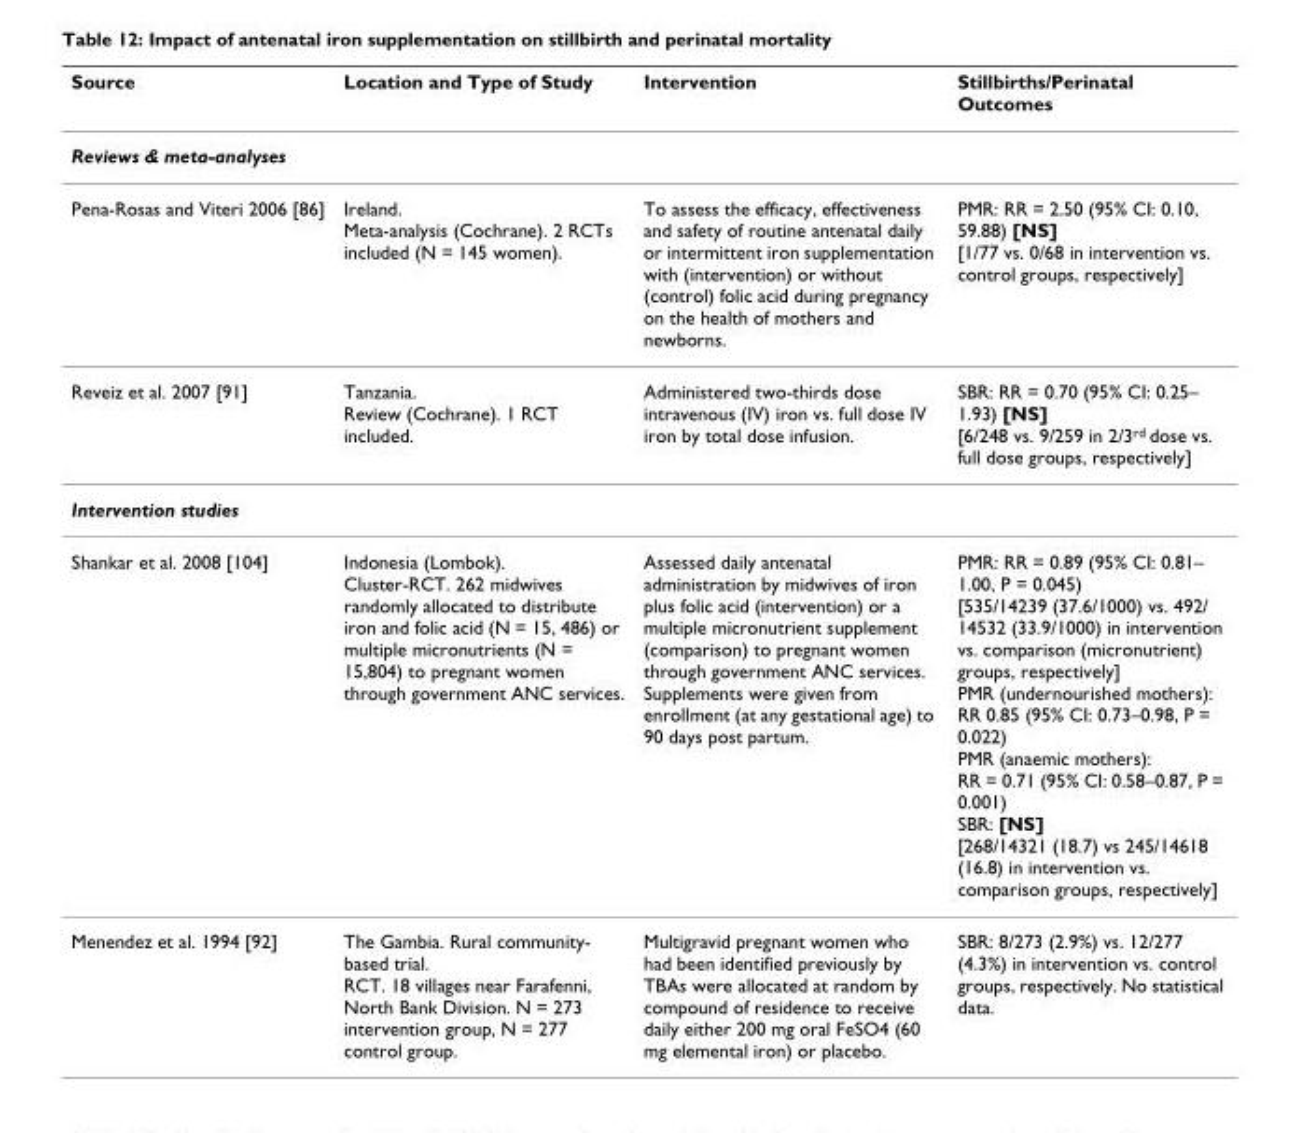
<table><thead><tr><td>Source</td><td>Location and Type of Study</td><td>Intervention</td><td>Stillbirths/Perinatal Outcomes</td></tr></thead><tbody><tr><td colspan="4">Reviews &amp; meta-analyses</td></tr><tr><td>Pena-Rosas and Viteri 2006 [86]</td><td>Ireland. Meta-analysis (Cochrane). 2 RCTs included (N = 145 women).</td><td>To assess the efficacy, effectiveness and safety of routine antenatal daily or intermittent iron supplementation with (intervention) or without (control) folic acid during pregnancy on the health of mothers and newborns.</td><td>PMR: RR = 2.50 (95% CI: 0.10, 59.88) [NS] [1/77 vs. 0/68 in intervention vs. control groups, respectively]</td></tr><tr><td>Reveiz et al. 2007 [91]</td><td>Tanzania. Review (Cochrane). 1 RCT included.</td><td>Administered two-thirds dose intravenous (IV) iron vs. full dose IV iron by total dose infusion.</td><td>SBR: RR = 0.70 (95% CI: 0.25– 1.93) [NS] [6/248 vs. 9/259 in 2/3rd dose vs. full dose groups, respectively]</td></tr><tr><td colspan="4">Intervention studies</td></tr><tr><td>Shankar et al. 2008 [104]</td><td>Indonesia (Lombok). Cluster-RCT. 262 midwives randomly allocated to distribute iron and folic acid (N = 15, 486) or multiple micronutrients (N = 15,804) to pregnant women through government ANC services.</td><td>Assessed daily antenatal administration by midwives of iron plus folic acid (intervention) or a multiple micronutrient supplement (comparison) to pregnant women through government ANC services. Supplements were given from enrollment (at any gestational age) to 90 days post partum.</td><td>PMR: RR = 0.89 (95% CI: 0.81– 1.00, P = 0.045) [535/14239 (37.6/1000) vs. 492/ 14532 (33.9/1000) in intervention vs. comparison (micronutrient) groups, respectively] PMR (undernourished mothers): RR 0.85 (95% CI: 0.73–0.98, P = 0.022) PMR (anaemic mothers): RR = 0.71 (95% CI: 0.58–0.87, P = 0.001) SBR: [NS] [268/14321 (18.7) vs 245/14618 (16.8) in intervention vs. comparison groups, respectively]</td></tr><tr><td>Menendez et al. 1994 [92]</td><td>The Gambia. Rural community- based trial. RCT. 18 villages near Farafenni, North Bank Division. N = 273 intervention group, N = 277 control group.</td><td>Multigravid pregnant women who had been identified previously by TBAs were allocated at random by compound of residence to receive daily either 200 mg oral FeSO4 (60 mg elemental iron) or placebo.</td><td>SBR: 8/273 (2.9%) vs. 12/277 (4.3%) in intervention vs. control groups, respectively. No statistical data.</td></tr></tbody></table>